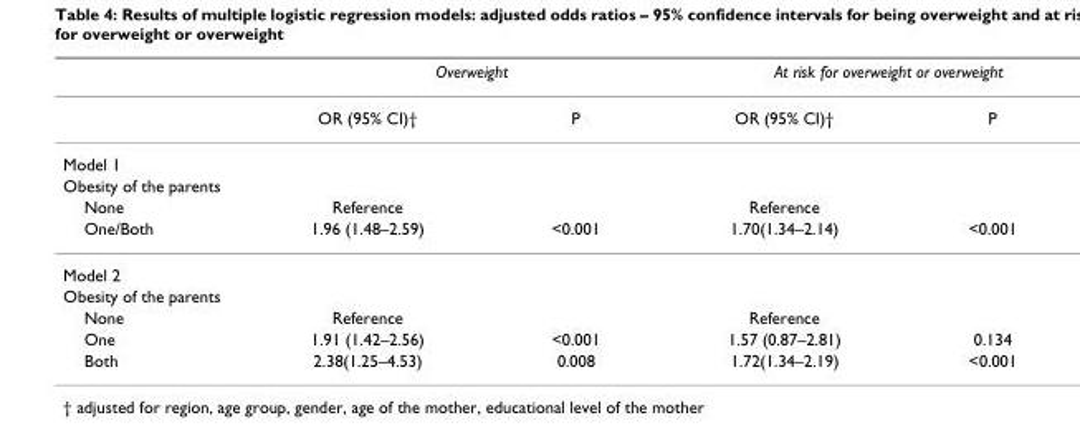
<table><thead><tr><td rowspan="2"></td><td colspan="2">Overweight</td><td colspan="2">At risk for overweight or overweight</td></tr><tr><td>OR (95% CI)†</td><td>P</td><td>OR (95% CI)†</td><td>P</td></tr></thead><tbody><tr><td colspan="5">Model 1</td></tr><tr><td colspan="5">Obesity of the parents</td></tr><tr><td>None</td><td>Reference</td><td></td><td>Reference</td><td></td></tr><tr><td>One/Both</td><td>1.96 (1.48–2.59)</td><td>&lt;0.001</td><td>1.70(1.34–2.14)</td><td>&lt;0.001</td></tr><tr><td colspan="5">Model 2</td></tr><tr><td colspan="5">Obesity of the parents</td></tr><tr><td>None</td><td>Reference</td><td></td><td>Reference</td><td></td></tr><tr><td>One</td><td>1.91 (1.42–2.56)</td><td>&lt;0.001</td><td>1.57 (0.87–2.81)</td><td>0.134</td></tr><tr><td>Both</td><td>2.38(1.25–4.53)</td><td>0.008</td><td>1.72(1.34–2.19)</td><td>&lt;0.001</td></tr></tbody></table>